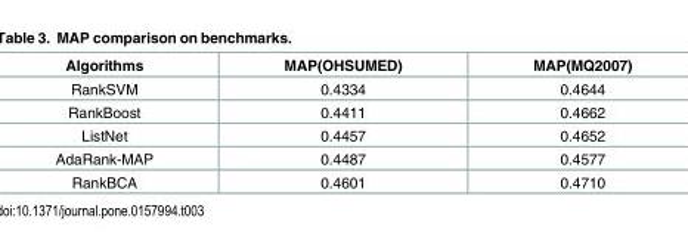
<table><thead><tr><td>Algorithms</td><td>MAP(OHSUMED)</td><td>MAP(MQ2007)</td></tr></thead><tbody><tr><td>RankSVM</td><td>0.4334</td><td>0.4644</td></tr><tr><td>RankBoost</td><td>0.4411</td><td>0.4662</td></tr><tr><td>ListNet</td><td>0.4457</td><td>0.4652</td></tr><tr><td>AdaRank-MAP</td><td>0.4487</td><td>0.4577</td></tr><tr><td>RankBCA</td><td>0.4601</td><td>0.4710</td></tr></tbody></table>